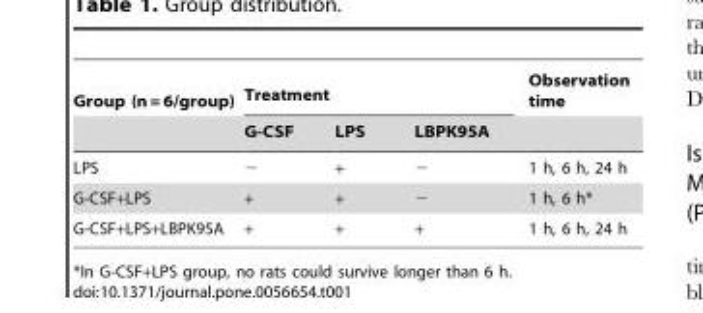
<table><thead><tr><td rowspan="2">Group (n = 6/group)</td><td colspan="3">Treatment</td><td rowspan="2">Observation time</td></tr><tr><td>G-CSF</td><td>LPS</td><td>LBPK95A</td></tr></thead><tbody><tr><td>LPS</td><td>−</td><td>+</td><td>−</td><td>1 h, 6 h, 24 h</td></tr><tr><td>G-CSF+LPS</td><td>+</td><td>+</td><td>−</td><td>1 h, 6 h*</td></tr><tr><td>G-CSF+LPS+LBPK95A</td><td>+</td><td>+</td><td>+</td><td>1 h, 6 h, 24 h</td></tr></tbody></table>